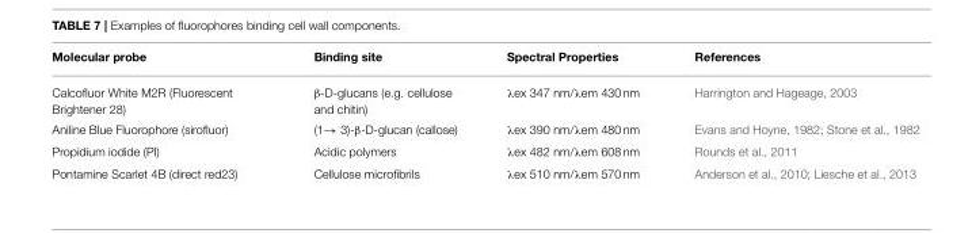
<table><thead><tr><td>Molecular probe</td><td>Binding site</td><td>Spectral Properties</td><td>References</td></tr></thead><tbody><tr><td>Calcofluor White M2R (Fluorescent Brightener 28)</td><td>β-D-glucans (e.g. cellulose and chitin)</td><td>λex 347 nm/λem 430 nm</td><td>Harrington and Hageage, 2003</td></tr><tr><td>Aniline Blue Fluorophore (sirofluor)</td><td>(1→ 3)-β-D-glucan (callose)</td><td>λex 390 nm/λem 480 nm</td><td>Evans and Hoyne, 1982; Stone et al., 1982</td></tr><tr><td>Propidium iodide (PI)</td><td>Acidic polymers</td><td>λex 482 nm/λem 608 nm</td><td>Rounds et al., 2011</td></tr><tr><td>Pontamine Scarlet 4B (direct red23)</td><td>Cellulose microfibrils</td><td>λex 510 nm/λem 570 nm</td><td>Anderson et al., 2010; Liesche et al., 2013</td></tr></tbody></table>